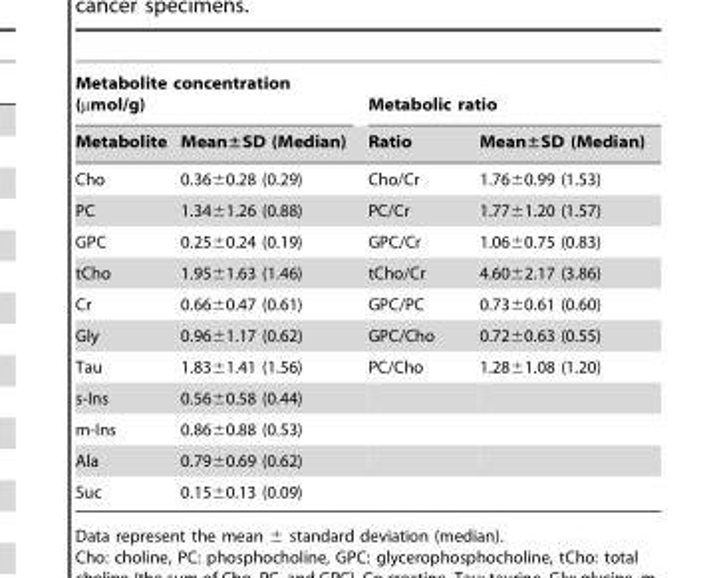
<table><thead><tr><td colspan="2">Metabolite concentration (µmol/g)</td><td colspan="2">Metabolic ratio</td></tr><tr><td>Metabolite</td><td>Mean±SD (Median)</td><td>Ratio</td><td>Mean±SD (Median)</td></tr></thead><tbody><tr><td>Cho</td><td>0.36±0.28 (0.29)</td><td>Cho/Cr</td><td>1.76±0.99 (1.53)</td></tr><tr><td>PC</td><td>1.34±1.26 (0.88)</td><td>PC/Cr</td><td>1.77±1.20 (1.57)</td></tr><tr><td>GPC</td><td>0.25±0.24 (0.19)</td><td>GPC/Cr</td><td>1.06±0.75 (0.83)</td></tr><tr><td>tCho</td><td>1.95±1.63 (1.46)</td><td>tCho/Cr</td><td>4.60±2.17 (3.86)</td></tr><tr><td>Cr</td><td>0.66±0.47 (0.61)</td><td>GPC/PC</td><td>0.73±0.61 (0.60)</td></tr><tr><td>Gly</td><td>0.96±1.17 (0.62)</td><td>GPC/Cho</td><td>0.72±0.63 (0.55)</td></tr><tr><td>Tau</td><td>1.83±1.41 (1.56)</td><td>PC/Cho</td><td>1.28±1.08 (1.20)</td></tr><tr><td>s-Ins</td><td>0.56±0.58 (0.44)</td><td></td><td></td></tr><tr><td>m-Ins</td><td>0.86±0.88 (0.53)</td><td></td><td></td></tr><tr><td>Ala</td><td>0.79±0.69 (0.62)</td><td></td><td></td></tr><tr><td>Suc</td><td>0.15±0.13 (0.09)</td><td></td><td></td></tr></tbody></table>